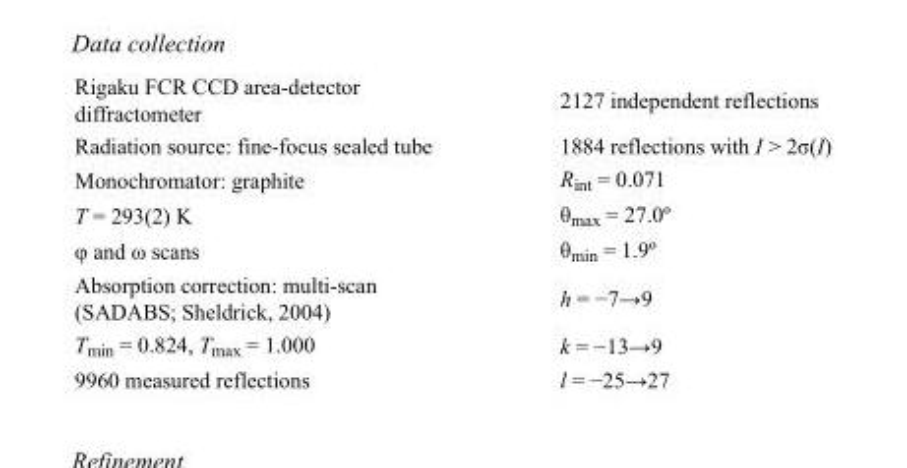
<table><tbody><tr><td>Rigaku FCR CCD area-detector diffractometer</td><td>2127 independent reflections</td></tr><tr><td>Radiation source: fine-focus sealed tube</td><td>1884 reflections with I &gt; 2σ(I)</td></tr><tr><td>Monochromator: graphite</td><td>R<sub>int</sub> = 0.071</td></tr><tr><td>T = 293(2) K</td><td>θ<sub>max</sub> = 27.0º</td></tr><tr><td>φ and ω scans</td><td>θ<sub>min</sub> = 1.9º</td></tr><tr><td>Absorption correction: multi-scan (SADABS; Sheldrick, 2004)</td><td>h = −7→9</td></tr><tr><td>T<sub>min</sub> = 0.824, T<sub>max</sub> = 1.000</td><td>k = −13→9</td></tr><tr><td>9960 measured reflections</td><td>l = −25→27</td></tr></tbody></table>